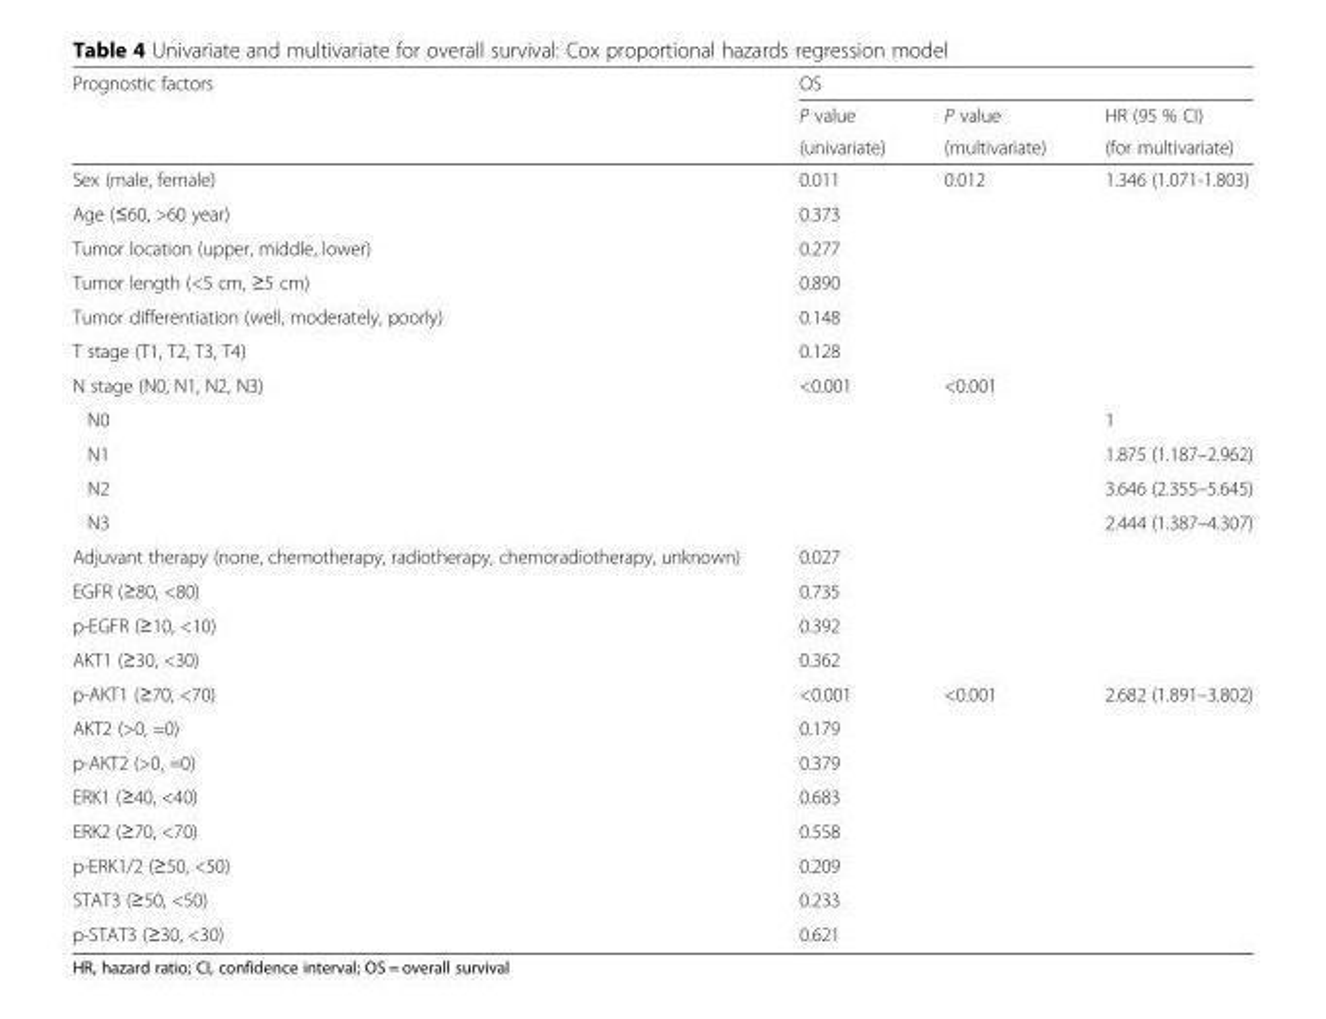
<table><thead><tr><td rowspan="3">Prognostic factors</td><td colspan="3">OS</td></tr><tr><td rowspan="2">P value (univariate)</td><td rowspan="2">P value (multivariate)</td><td rowspan="2">HR (95 % CI) (for multivariate)</td></tr><tr></tr></thead><tbody><tr><td>Sex (male, female)</td><td>0.011</td><td>0.012</td><td>1.346 (1.071-1.803)</td></tr><tr><td>Age (≤60, &gt;60 year)</td><td>0.373</td><td></td><td></td></tr><tr><td>Tumor location (upper, middle, lower)</td><td>0.277</td><td></td><td></td></tr><tr><td>Tumor length (&lt;5 cm, ≥5 cm)</td><td>0.890</td><td></td><td></td></tr><tr><td>Tumor differentiation (well, moderately, poorly)</td><td>0.148</td><td></td><td></td></tr><tr><td>T stage (T1, T2, T3, T4)</td><td>0.128</td><td></td><td></td></tr><tr><td>N stage (N0, N1, N2, N3)</td><td>&lt;0.001</td><td>&lt;0.001</td><td></td></tr><tr><td>N0</td><td></td><td></td><td>1</td></tr><tr><td>N1</td><td></td><td></td><td>1.875 (1.187–2.962)</td></tr><tr><td>N2</td><td></td><td></td><td>3.646 (2.355–5.645)</td></tr><tr><td>N3</td><td></td><td></td><td>2.444 (1.387–4.307)</td></tr><tr><td>Adjuvant therapy (none, chemotherapy, radiotherapy, chemoradiotherapy, unknown)</td><td>0.027</td><td></td><td></td></tr><tr><td>EGFR (≥80, &lt;80)</td><td>0.735</td><td></td><td></td></tr><tr><td>p-EGFR (≥10, &lt;10)</td><td>0.392</td><td></td><td></td></tr><tr><td>AKT1 (≥30, &lt;30)</td><td>0.362</td><td></td><td></td></tr><tr><td>p-AKT1 (≥70, &lt;70)</td><td>&lt;0.001</td><td>&lt;0.001</td><td>2.682 (1.891–3.802)</td></tr><tr><td>AKT2 (&gt;0, =0)</td><td>0.179</td><td></td><td></td></tr><tr><td>p-AKT2 (&gt;0, =0)</td><td>0.379</td><td></td><td></td></tr><tr><td>ERK1 (≥40, &lt;40)</td><td>0.683</td><td></td><td></td></tr><tr><td>ERK2 (≥70, &lt;70)</td><td>0.558</td><td></td><td></td></tr><tr><td>p-ERK1/2 (≥50, &lt;50)</td><td>0.209</td><td></td><td></td></tr><tr><td>STAT3 (≥50, &lt;50)</td><td>0.233</td><td></td><td></td></tr><tr><td>p-STAT3 (≥30, &lt;30)</td><td>0.621</td><td></td><td></td></tr></tbody></table>